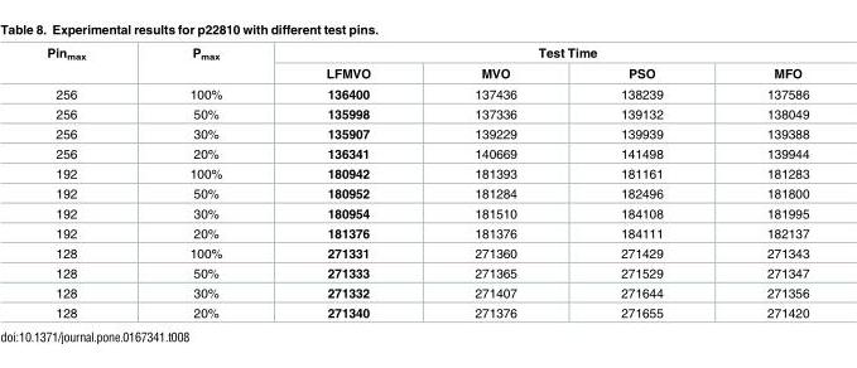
<table><thead><tr><td rowspan="2">Pin<sub>max</sub></td><td rowspan="2">P<sub>max</sub></td><td colspan="4">Test Time</td></tr><tr><td>LFMVO</td><td>MVO</td><td>PSO</td><td>MFO</td></tr></thead><tbody><tr><td>256</td><td>100%</td><td>136400</td><td>137436</td><td>138239</td><td>137586</td></tr><tr><td>256</td><td>50%</td><td>135998</td><td>137336</td><td>139132</td><td>138049</td></tr><tr><td>256</td><td>30%</td><td>135907</td><td>139229</td><td>139939</td><td>139388</td></tr><tr><td>256</td><td>20%</td><td>136341</td><td>140669</td><td>141498</td><td>139944</td></tr><tr><td>192</td><td>100%</td><td>180942</td><td>181393</td><td>181161</td><td>181283</td></tr><tr><td>192</td><td>50%</td><td>180952</td><td>181284</td><td>182496</td><td>181800</td></tr><tr><td>192</td><td>30%</td><td>180954</td><td>181510</td><td>184108</td><td>181995</td></tr><tr><td>192</td><td>20%</td><td>181376</td><td>181376</td><td>184111</td><td>182137</td></tr><tr><td>128</td><td>100%</td><td>271331</td><td>271360</td><td>271429</td><td>271343</td></tr><tr><td>128</td><td>50%</td><td>271333</td><td>271365</td><td>271529</td><td>271347</td></tr><tr><td>128</td><td>30%</td><td>271332</td><td>271407</td><td>271644</td><td>271356</td></tr><tr><td>128</td><td>20%</td><td>271340</td><td>271376</td><td>271655</td><td>271420</td></tr></tbody></table>